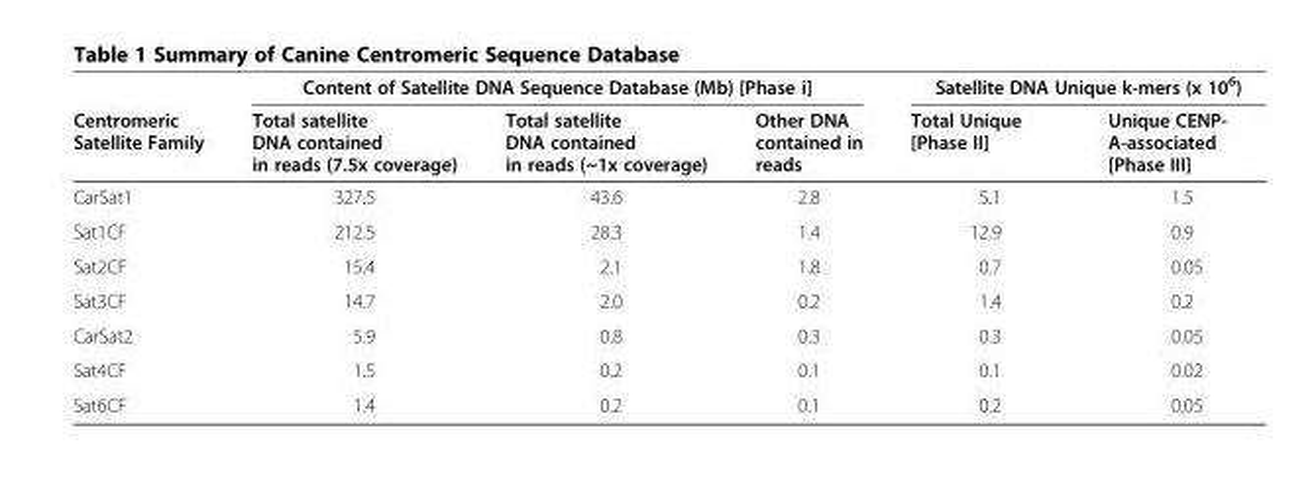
<table><thead><tr><td rowspan="2">Centromeric Satellite Family</td><td colspan="3">Content of Satellite DNA Sequence Database (Mb) [Phase i]</td><td colspan="2">Satellite DNA Unique k-mers (x 10<sup>6</sup>)</td></tr><tr><td>Total satellite DNA contained in reads (7.5x coverage)</td><td>Total satellite DNA contained in reads (~1x coverage)</td><td>Other DNA contained in reads</td><td>Total Unique [Phase II]</td><td>Unique CENP- A-associated [Phase III]</td></tr></thead><tbody><tr><td>CarSat1</td><td>327.5</td><td>43.6</td><td>2.8</td><td>5.1</td><td>1.5</td></tr><tr><td>Sat1CF</td><td>212.5</td><td>28.3</td><td>1.4</td><td>12.9</td><td>0.9</td></tr><tr><td>Sat2CF</td><td>15.4</td><td>2.1</td><td>1.8</td><td>0.7</td><td>0.05</td></tr><tr><td>Sat3CF</td><td>14.7</td><td>2.0</td><td>0.2</td><td>1.4</td><td>0.2</td></tr><tr><td>CarSat2</td><td>5.9</td><td>0.8</td><td>0.3</td><td>0.3</td><td>0.05</td></tr><tr><td>Sat4CF</td><td>1.5</td><td>0.2</td><td>0.1</td><td>0.1</td><td>0.02</td></tr><tr><td>Sat6CF</td><td>1.4</td><td>0.2</td><td>0.1</td><td>0.2</td><td>0.05</td></tr></tbody></table>